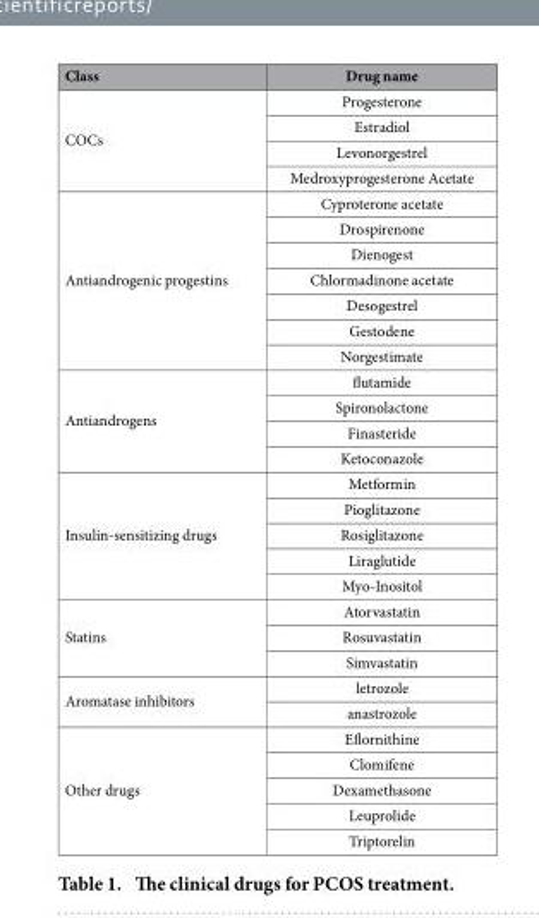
<table><thead><tr><td>Class</td><td>Drug name</td></tr></thead><tbody><tr><td rowspan="4">COCs</td><td>Progesterone</td></tr><tr><td>Estradiol</td></tr><tr><td>Levonorgestrel</td></tr><tr><td>Medroxyprogesterone Acetate</td></tr><tr><td rowspan="7">Antiandrogenic progestins</td><td>Cyproterone acetate</td></tr><tr><td>Drospirenone</td></tr><tr><td>Dienogest</td></tr><tr><td>Chlormadinone acetate</td></tr><tr><td>Desogestrel</td></tr><tr><td>Gestodene</td></tr><tr><td>Norgestimate</td></tr><tr><td rowspan="4">Antiandrogens</td><td>flutamide</td></tr><tr><td>Spironolactone</td></tr><tr><td>Finasteride</td></tr><tr><td>Ketoconazole</td></tr><tr><td rowspan="5">Insulin-sensitizing drugs</td><td>Metformin</td></tr><tr><td>Pioglitazone</td></tr><tr><td>Rosiglitazone</td></tr><tr><td>Liraglutide</td></tr><tr><td>Myo-Inositol</td></tr><tr><td rowspan="3">Statins</td><td>Atorvastatin</td></tr><tr><td>Rosuvastatin</td></tr><tr><td>Simvastatin</td></tr><tr><td rowspan="2">Aromatase inhibitors</td><td>letrozole</td></tr><tr><td>anastrozole</td></tr><tr><td rowspan="5">Other drugs</td><td>Eflornithine</td></tr><tr><td>Clomifene</td></tr><tr><td>Dexamethasone</td></tr><tr><td>Leuprolide</td></tr><tr><td>Triptorelin</td></tr></tbody></table>